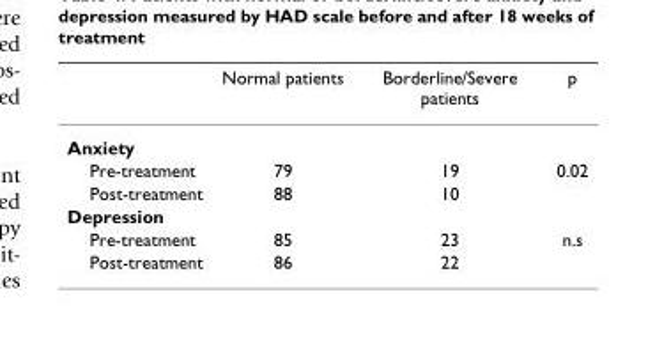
<table><thead><tr><td></td><td>Normal patients</td><td>Borderline/Severe patients</td><td>p</td></tr></thead><tbody><tr><td colspan="4">Anxiety</td></tr><tr><td>Pre-treatment</td><td>79</td><td>19</td><td>0.02</td></tr><tr><td>Post-treatment</td><td>88</td><td>10</td><td></td></tr><tr><td colspan="4">Depression</td></tr><tr><td>Pre-treatment</td><td>85</td><td>23</td><td>n.s</td></tr><tr><td>Post-treatment</td><td>86</td><td>22</td><td></td></tr></tbody></table>